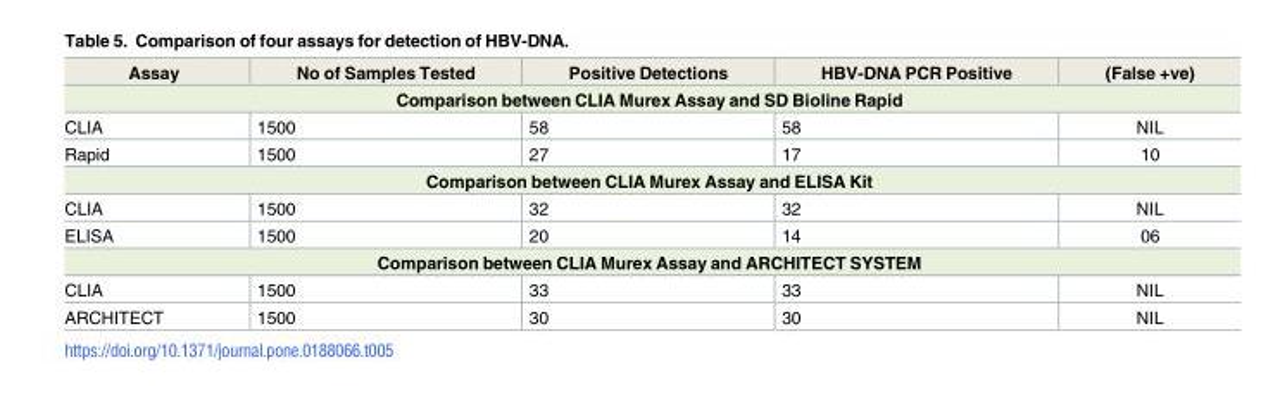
<table><thead><tr><td>Assay</td><td>No of Samples Tested</td><td>Positive Detections</td><td>HBV-DNA PCR Positive</td><td>(False +ve)</td></tr></thead><tbody><tr><td colspan="5">Comparison between CLIA Murex Assay and SD Bioline Rapid</td></tr><tr><td>CLIA</td><td>1500</td><td>58</td><td>58</td><td>NIL</td></tr><tr><td>Rapid</td><td>1500</td><td>27</td><td>17</td><td>10</td></tr><tr><td colspan="5">Comparison between CLIA Murex Assay and ELISA Kit</td></tr><tr><td>CLIA</td><td>1500</td><td>32</td><td>32</td><td>NIL</td></tr><tr><td>ELISA</td><td>1500</td><td>20</td><td>14</td><td>06</td></tr><tr><td colspan="5">Comparison between CLIA Murex Assay and ARCHITECT SYSTEM</td></tr><tr><td>CLIA</td><td>1500</td><td>33</td><td>33</td><td>NIL</td></tr><tr><td>ARCHITECT</td><td>1500</td><td>30</td><td>30</td><td>NIL</td></tr></tbody></table>